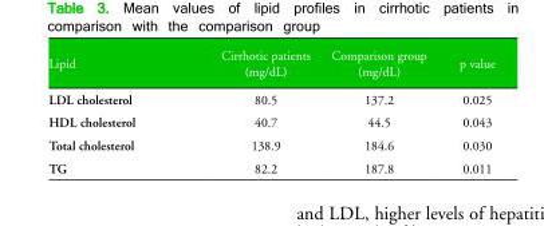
<table><thead><tr><td>Lipid</td><td>Cirrhotic patients (mg/dL)</td><td>Comparison group (mg/dL)</td><td>p value</td></tr></thead><tbody><tr><td>LDL cholesterol</td><td>80.5</td><td>137.2</td><td>0.025</td></tr><tr><td>HDL cholesterol</td><td>40.7</td><td>44.5</td><td>0.043</td></tr><tr><td>Total cholesterol</td><td>138.9</td><td>184.6</td><td>0.030</td></tr><tr><td>TG</td><td>82.2</td><td>187.8</td><td>0.011</td></tr></tbody></table>